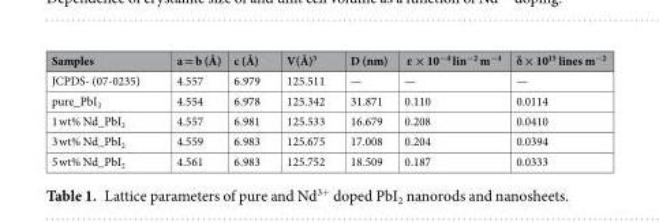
<table><thead><tr><td>Samples</td><td>a = b (Å)</td><td>c (Å)</td><td>V(Å)<sup>3</sup></td><td>D (nm)</td><td>ɛ × 10<sup>−4</sup> lin<sup>−2</sup> m<sup>−4</sup></td><td>δ × 10<sup>15</sup> lines m<sup>−2</sup></td></tr></thead><tbody><tr><td>JCPDS- (07-0235)</td><td>4.557</td><td>6.979</td><td>125.511</td><td>—</td><td>—</td><td>—</td></tr><tr><td>pure_PbI<sub>2</sub></td><td>4.554</td><td>6.978</td><td>125.342</td><td>31.871</td><td>0.110</td><td>0.0114</td></tr><tr><td>1 wt% Nd_PbI<sub>2</sub></td><td>4.557</td><td>6.981</td><td>125.533</td><td>16.679</td><td>0.208</td><td>0.0410</td></tr><tr><td>3 wt% Nd_PbI<sub>2</sub></td><td>4.559</td><td>6.983</td><td>125.675</td><td>17.008</td><td>0.204</td><td>0.0394</td></tr><tr><td>5 wt% Nd_PbI<sub>2</sub></td><td>4.561</td><td>6.983</td><td>125.752</td><td>18.509</td><td>0.187</td><td>0.0333</td></tr></tbody></table>